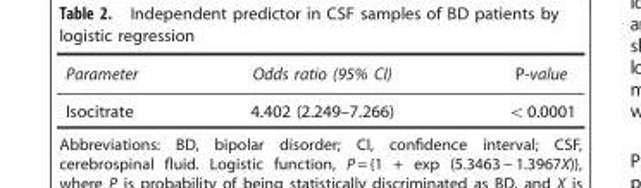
<table><thead><tr><td>Parameter</td><td>Odds ratio (95% CI)</td><td>P-value</td></tr></thead><tbody><tr><td>Isocitrate</td><td>4.402 (2.249–7.266)</td><td>&lt;0.0001</td></tr></tbody></table>